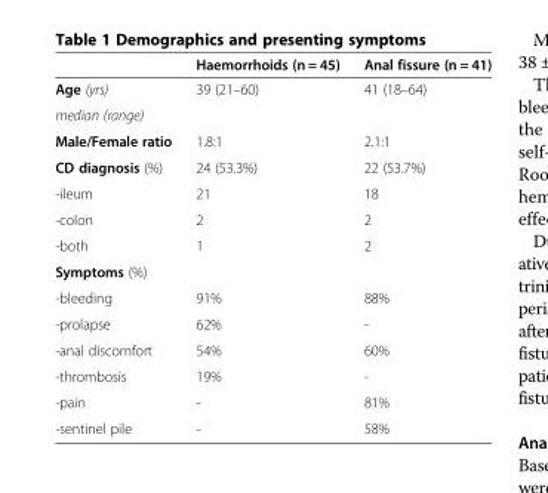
<table><thead><tr><td></td><td>Haemorrhoids (n = 45)</td><td>Anal fissure (n = 41)</td></tr></thead><tbody><tr><td>Age (yrs)</td><td rowspan="2">39 (21–60)</td><td rowspan="2">41 (18–64)</td></tr><tr><td>median (range)</td></tr><tr><td>Male/Female ratio</td><td>1.8:1</td><td>2.1:1</td></tr><tr><td>CD diagnosis (%)</td><td>24 (53.3%)</td><td>22 (53.7%)</td></tr><tr><td>-ileum</td><td>21</td><td>18</td></tr><tr><td>-colon</td><td>2</td><td>2</td></tr><tr><td>-both</td><td>1</td><td>2</td></tr><tr><td colspan="3">Symptoms (%)</td></tr><tr><td>-bleeding</td><td>91%</td><td>88%</td></tr><tr><td>-prolapse</td><td>62%</td><td>-</td></tr><tr><td>-anal discomfort</td><td>54%</td><td>60%</td></tr><tr><td>-thrombosis</td><td>19%</td><td>-</td></tr><tr><td>-pain</td><td>-</td><td>81%</td></tr><tr><td>-sentinel pile</td><td>-</td><td>58%</td></tr></tbody></table>